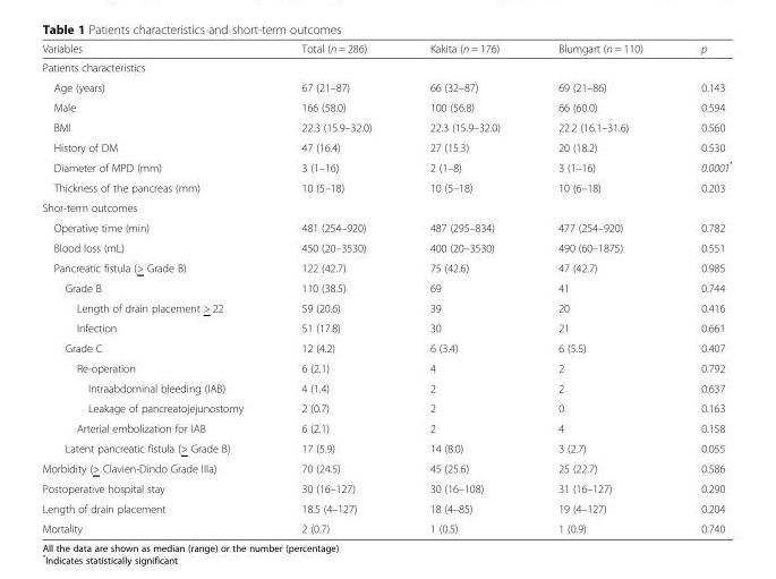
<table><thead><tr><td>Variables</td><td>Total (n = 286)</td><td>Kakita (n = 176)</td><td>Blumgart (n = 110)</td><td>p</td></tr></thead><tbody><tr><td colspan="5">Patients characteristics</td></tr><tr><td>Age (years)</td><td>67 (21–87)</td><td>66 (32–87)</td><td>69 (21–86)</td><td>0.143</td></tr><tr><td>Male</td><td>166 (58.0)</td><td>100 (56.8)</td><td>66 (60.0)</td><td>0.594</td></tr><tr><td>BMI</td><td>22.3 (15.9–32.0)</td><td>22.3 (15.9–32.0)</td><td>22.2 (16.1–31.6)</td><td>0.560</td></tr><tr><td>History of DM</td><td>47 (16.4)</td><td>27 (15.3)</td><td>20 (18.2)</td><td>0.530</td></tr><tr><td>Diameter of MPD (mm)</td><td>3 (1–16)</td><td>2 (1–8)</td><td>3 (1–16)</td><td>0.0001*</td></tr><tr><td>Thickness of the pancreas (mm)</td><td>10 (5–18)</td><td>10 (5–18)</td><td>10 (6–18)</td><td>0.203</td></tr><tr><td colspan="5">Shor-term outcomes</td></tr><tr><td>Operative time (min)</td><td>481 (254–920)</td><td>487 (295–834)</td><td>477 (254–920)</td><td>0.782</td></tr><tr><td>Blood loss (mL)</td><td>450 (20–3530)</td><td>400 (20–3530)</td><td>490 (60–1875)</td><td>0.551</td></tr><tr><td>Pancreatic fistula (&gt; Grade B)</td><td>122 (42.7)</td><td>75 (42.6)</td><td>47 (42.7)</td><td>0.985</td></tr><tr><td>Grade B</td><td>110 (38.5)</td><td>69</td><td>41</td><td>0.744</td></tr><tr><td>Length of drain placement &gt; 22</td><td>59 (20.6)</td><td>39</td><td>20</td><td>0.416</td></tr><tr><td>Infection</td><td>51 (17.8)</td><td>30</td><td>21</td><td>0.661</td></tr><tr><td>Grade C</td><td>12 (4.2)</td><td>6 (3.4)</td><td>6 (5.5)</td><td>0.407</td></tr><tr><td>Re-operation</td><td>6 (2.1)</td><td>4</td><td>2</td><td>0.792</td></tr><tr><td>Intraabdominal bleeding (IAB)</td><td>4 (1.4)</td><td>2</td><td>2</td><td>0.637</td></tr><tr><td>Leakage of pancreatojejunostomy</td><td>2 (0.7)</td><td>2</td><td>0</td><td>0.163</td></tr><tr><td>Arterial embolization for IAB</td><td>6 (2.1)</td><td>2</td><td>4</td><td>0.158</td></tr><tr><td>Latent pancreatic fistula (&gt; Grade B)</td><td>17 (5.9)</td><td>14 (8.0)</td><td>3 (2.7)</td><td>0.055</td></tr><tr><td>Morbidity (&gt; Clavien-Dindo Grade IIIa)</td><td>70 (24.5)</td><td>45 (25.6)</td><td>25 (22.7)</td><td>0.586</td></tr><tr><td>Postoperative hospital stay</td><td>30 (16–127)</td><td>30 (16–108)</td><td>31 (16–127)</td><td>0.290</td></tr><tr><td>Length of drain placement</td><td>18.5 (4–127)</td><td>18 (4–85)</td><td>19 (4–127)</td><td>0.204</td></tr><tr><td>Mortality</td><td>2 (0.7)</td><td>1 (0.5)</td><td>1 (0.9)</td><td>0.740</td></tr></tbody></table>